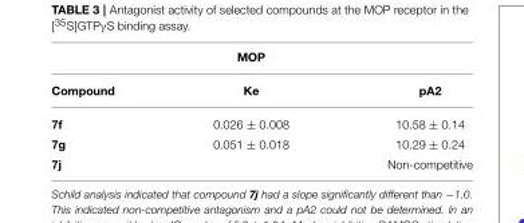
<table><thead><tr><td></td><td>MOP</td><td></td></tr></thead><tbody><tr><td>Compound</td><td>Ke</td><td>pA2</td></tr><tr><td>7f</td><td>0.026 ± 0.008</td><td>10.58 ± 0.14</td></tr><tr><td>7g</td><td>0.051 ± 0.018</td><td>10.29 ± 0.24</td></tr><tr><td>7j</td><td></td><td>Non-competitive</td></tr></tbody></table>